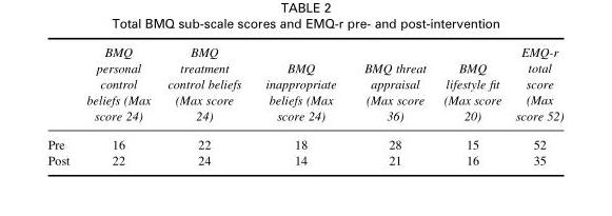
<table><thead><tr><td></td><td>BMQ personal control beliefs (Max score 24)</td><td>BMQ treatment control beliefs (Max score 24)</td><td>BMQ inappropriate beliefs (Max score 24)</td><td>BMQ threat appraisal (Max score 36)</td><td>BMQ lifestyle fit (Max score 20)</td><td>EMQ-r total score (Max score 52)</td></tr></thead><tbody><tr><td>Pre</td><td>16</td><td>22</td><td>18</td><td>28</td><td>15</td><td>52</td></tr><tr><td>Post</td><td>22</td><td>24</td><td>14</td><td>21</td><td>16</td><td>35</td></tr></tbody></table>